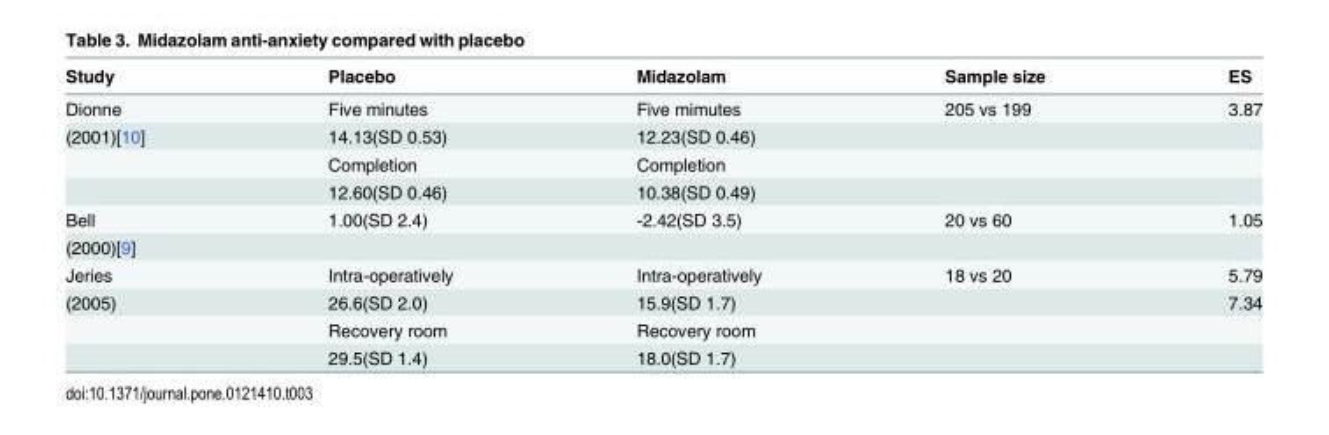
<table><thead><tr><td>Study</td><td>Placebo</td><td>Midazolam</td><td>Sample size</td><td>ES</td></tr></thead><tbody><tr><td>Dionne</td><td>Five minutes</td><td>Five mimutes</td><td>205 vs 199</td><td>3.87</td></tr><tr><td rowspan="3">(2001)[10]</td><td>14.13(SD 0.53)</td><td>12.23(SD 0.46)</td><td></td><td></td></tr><tr><td>Completion</td><td>Completion</td><td></td><td></td></tr><tr><td>12.60(SD 0.46)</td><td>10.38(SD 0.49)</td><td></td><td></td></tr><tr><td>Bell</td><td>1.00(SD 2.4)</td><td>-2.42(SD 3.5)</td><td>20 vs 60</td><td>1.05</td></tr><tr><td colspan="5">(2000)[9]</td></tr><tr><td>Jeries</td><td>Intra-operatively</td><td>Intra-operatively</td><td>18 vs 20</td><td>5.79</td></tr><tr><td rowspan="3">(2005)</td><td>26.6(SD 2.0)</td><td>15.9(SD 1.7)</td><td></td><td>7.34</td></tr><tr><td>Recovery room</td><td>Recovery room</td><td></td><td></td></tr><tr><td>29.5(SD 1.4)</td><td>18.0(SD 1.7)</td><td></td><td></td></tr></tbody></table>